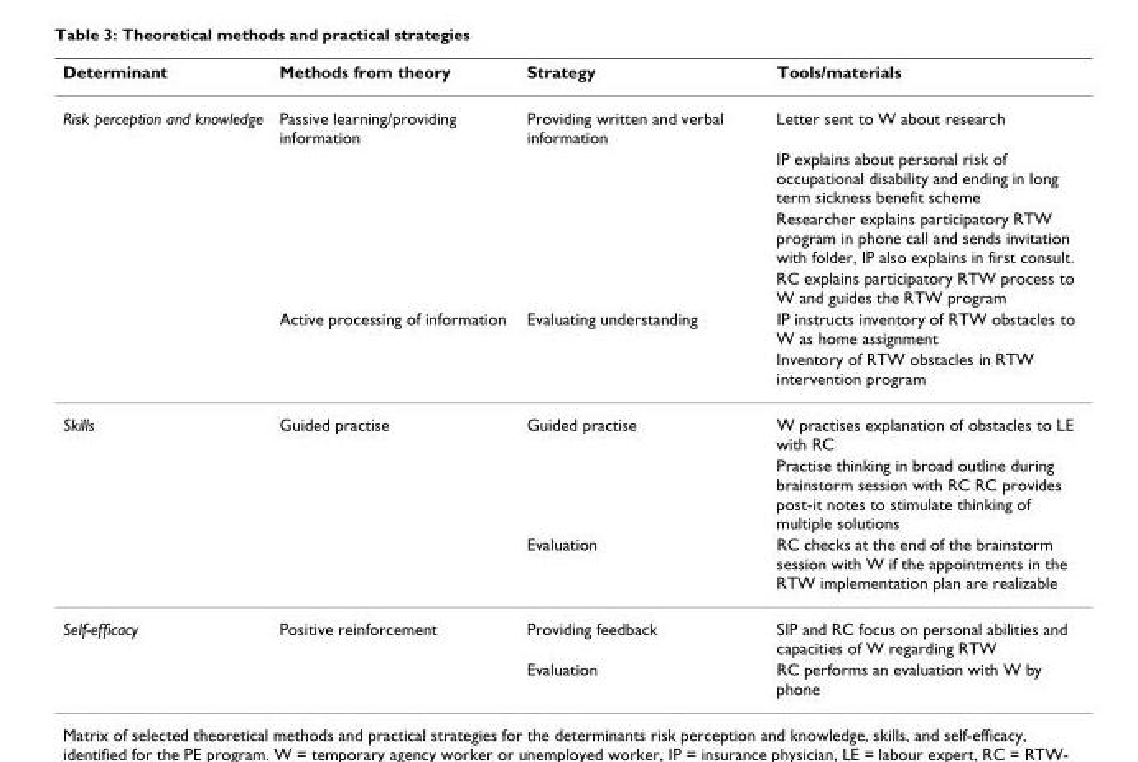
<table><thead><tr><td>Determinant</td><td>Methods from theory</td><td>Strategy</td><td>Tools/materials</td></tr></thead><tbody><tr><td rowspan="6">Risk perception and knowledge</td><td>Passive learning/providing information</td><td>Providing written and verbal information</td><td>Letter sent to W about research</td></tr><tr><td></td><td></td><td>IP explains about personal risk of occupational disability and ending in long term sickness benefit scheme</td></tr><tr><td></td><td></td><td>Researcher explains participatory RTW program in phone call and sends invitation with folder, IP also explains in first consult.</td></tr><tr><td></td><td></td><td>RC explains participatory RTW process to W and guides the RTW program</td></tr><tr><td>Active processing of information</td><td>Evaluating understanding</td><td>IP instructs inventory of RTW obstacles to W as home assignment</td></tr><tr><td></td><td></td><td>Inventory of RTW obstacles in RTW intervention program</td></tr><tr><td rowspan="3">Skills</td><td>Guided practise</td><td>Guided practise</td><td>W practises explanation of obstacles to LE with RC</td></tr><tr><td></td><td></td><td>Practise thinking in broad outline during brainstorm session with RC RC provides post-it notes to stimulate thinking of multiple solutions</td></tr><tr><td></td><td>Evaluation</td><td>RC checks at the end of the brainstorm session with W if the appointments in the RTW implementation plan are realizable</td></tr><tr><td rowspan="2">Self-efficacy</td><td>Positive reinforcement</td><td>Providing feedback</td><td>SIP and RC focus on personal abilities and capacities of W regarding RTW</td></tr><tr><td></td><td>Evaluation</td><td>RC performs an evaluation with W by phone</td></tr></tbody></table>